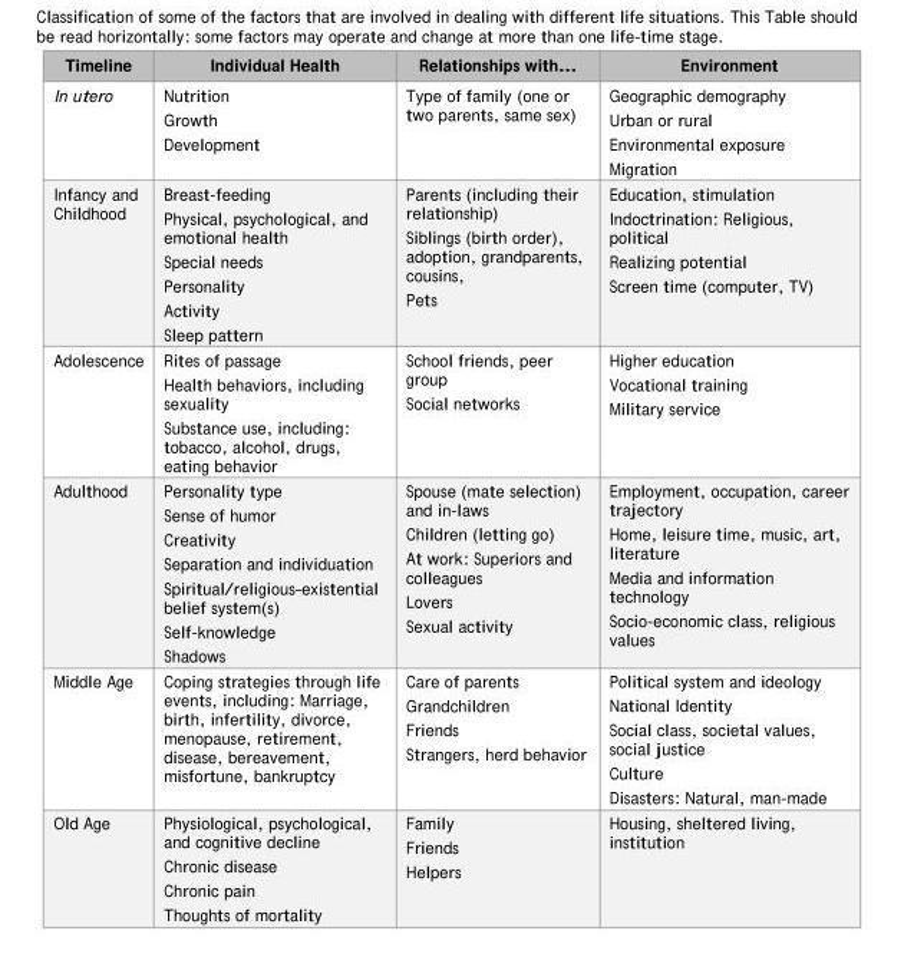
<table><thead><tr><td>Timeline</td><td>Individual Health</td><td>Relationships with...</td><td>Environment</td></tr></thead><tbody><tr><td>In utero</td><td>Nutrition Growth Development</td><td>Type of family (one or two parents, same sex)</td><td>Geographic demography Urban or rural Environmental exposure Migration</td></tr><tr><td>Infancy and Childhood</td><td>Breast-feeding Physical, psychological, and emotional health Special needs Personality Activity Sleep pattern</td><td>Parents (including their relationship) Siblings (birth order), adoption, grandparents, cousins, Pets</td><td>Education, stimulation Indoctrination: Religious, political Realizing potential Screen time (computer, TV)</td></tr><tr><td>Adolescence</td><td>Rites of passage Health behaviors, including sexuality Substance use, including: tobacco, alcohol, drugs, eating behavior</td><td>School friends, peer group Social networks</td><td>Higher education Vocational training Military service</td></tr><tr><td>Adulthood</td><td>Personality type Sense of humor Creativity Separation and individuation Spiritual/religious–existential belief system(s) Self-knowledge Shadows</td><td>Spouse (mate selection) and in-laws Children (letting go) At work: Superiors and colleagues Lovers Sexual activity</td><td>Employment, occupation, career trajectory Home, leisure time, music, art, literature Media and information technology Socio-economic class, religious values</td></tr><tr><td>Middle Age</td><td>Coping strategies through life events, including: Marriage, birth, infertility, divorce, menopause, retirement, disease, bereavement, misfortune, bankruptcy</td><td>Care of parents Grandchildren Friends Strangers, herd behavior</td><td>Political system and ideology National Identity Social class, societal values, social justice Culture Disasters: Natural, man-made</td></tr><tr><td>Old Age</td><td>Physiological, psychological, and cognitive decline Chronic disease Chronic pain Thoughts of mortality</td><td>Family Friends Helpers</td><td>Housing, sheltered living, institution</td></tr></tbody></table>